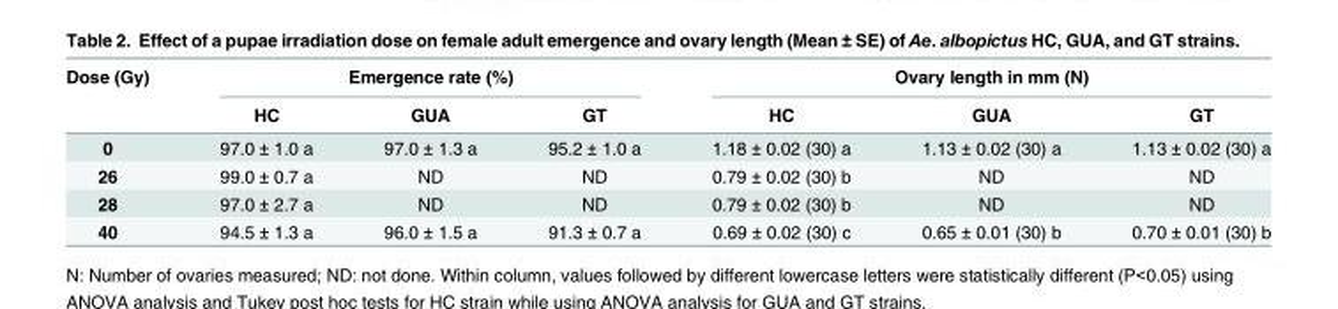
<table><thead><tr><td rowspan="2">Dose (Gy)</td><td colspan="3">Emergence rate (%)</td><td colspan="3">Ovary length in mm (N)</td></tr><tr><td>HC</td><td>GUA</td><td>GT</td><td>HC</td><td>GUA</td><td>GT</td></tr></thead><tbody><tr><td>0</td><td>97.0 ± 1.0 a</td><td>97.0 ± 1.3 a</td><td>95.2 ± 1.0 a</td><td>1.18 ± 0.02 (30) a</td><td>1.13 ± 0.02 (30) a</td><td>1.13 ± 0.02 (30) a</td></tr><tr><td>26</td><td>99.0 ± 0.7 a</td><td>ND</td><td>ND</td><td>0.79 ± 0.02 (30) b</td><td>ND</td><td>ND</td></tr><tr><td>28</td><td>97.0 ± 2.7 a</td><td>ND</td><td>ND</td><td>0.79 ± 0.02 (30) b</td><td>ND</td><td>ND</td></tr><tr><td>40</td><td>94.5 ± 1.3 a</td><td>96.0 ± 1.5 a</td><td>91.3 ± 0.7 a</td><td>0.69 ± 0.02 (30) c</td><td>0.65 ± 0.01 (30) b</td><td>0.70 ± 0.01 (30) b</td></tr></tbody></table>